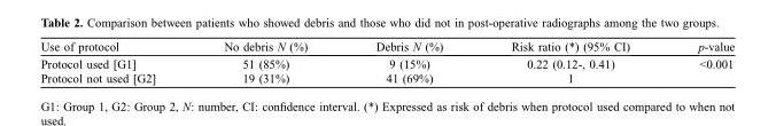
<table><thead><tr><td>Use of protocol</td><td>No debris N (%)</td><td>Debris N (%)</td><td>Risk ratio (*) (95% CI)</td><td>p-value</td></tr></thead><tbody><tr><td>Protocol used [G1]</td><td>51 (85%)</td><td>9 (15%)</td><td>0.22 (0.12-, 0.41)</td><td>&lt;0.001</td></tr><tr><td>Protocol not used [G2]</td><td>19 (31%)</td><td>41 (69%)</td><td>1</td><td></td></tr></tbody></table>